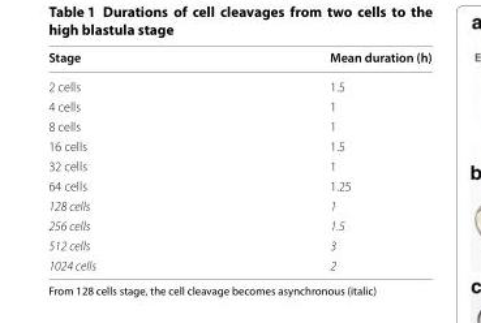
<table><thead><tr><td>Stage</td><td>Mean duration (h)</td></tr></thead><tbody><tr><td>2 cells</td><td>1.5</td></tr><tr><td>4 cells</td><td>1</td></tr><tr><td>8 cells</td><td>1</td></tr><tr><td>16 cells</td><td>1.5</td></tr><tr><td>32 cells</td><td>1</td></tr><tr><td>64 cells</td><td>1.25</td></tr><tr><td>128 cells</td><td>1</td></tr><tr><td>256 cells</td><td>1.5</td></tr><tr><td>512 cells</td><td>3</td></tr><tr><td>1024 cells</td><td>2</td></tr></tbody></table>